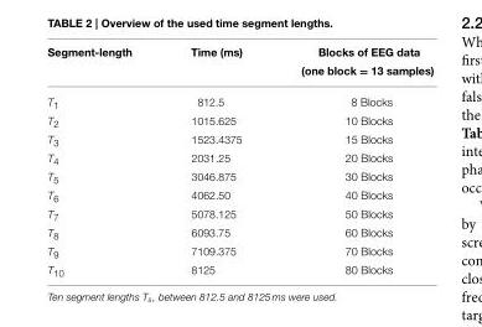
<table><thead><tr><td>Segment-length</td><td>Time (ms)</td><td>Blocks of EEG data (one block = 13 samples)</td></tr></thead><tbody><tr><td>T<sub>1</sub></td><td>812.5</td><td>8 Blocks</td></tr><tr><td>T<sub>2</sub></td><td>1015.625</td><td>10 Blocks</td></tr><tr><td>T<sub>3</sub></td><td>1523.4375</td><td>15 Blocks</td></tr><tr><td>T<sub>4</sub></td><td>2031.25</td><td>20 Blocks</td></tr><tr><td>T<sub>5</sub></td><td>3046.875</td><td>30 Blocks</td></tr><tr><td>T<sub>6</sub></td><td>4062.50</td><td>40 Blocks</td></tr><tr><td>T<sub>7</sub></td><td>5078.125</td><td>50 Blocks</td></tr><tr><td>T<sub>8</sub></td><td>6093.75</td><td>60 Blocks</td></tr><tr><td>T<sub>9</sub></td><td>7109.375</td><td>70 Blocks</td></tr><tr><td>T<sub>10</sub></td><td>8125</td><td>80 Blocks</td></tr></tbody></table>